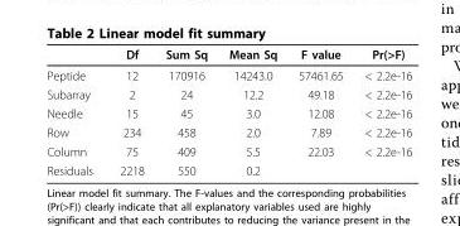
<table><thead><tr><td></td><td>Df</td><td>Sum Sq</td><td>Mean Sq</td><td>F value</td><td>Pr(&gt;F)</td></tr></thead><tbody><tr><td>Peptide</td><td>12</td><td>170916</td><td>14243.0</td><td>57461.65</td><td>&lt; 2.2e-16</td></tr><tr><td>Subarray</td><td>2</td><td>24</td><td>12.2</td><td>49.18</td><td>&lt; 2.2e-16</td></tr><tr><td>Needle</td><td>15</td><td>45</td><td>3.0</td><td>12.08</td><td>&lt; 2.2e-16</td></tr><tr><td>Row</td><td>234</td><td>458</td><td>2.0</td><td>7.89</td><td>&lt; 2.2e-16</td></tr><tr><td>Column</td><td>75</td><td>409</td><td>5.5</td><td>22.03</td><td>&lt; 2.2e-16</td></tr><tr><td>Residuals</td><td>2218</td><td>550</td><td>0.2</td><td></td><td></td></tr></tbody></table>